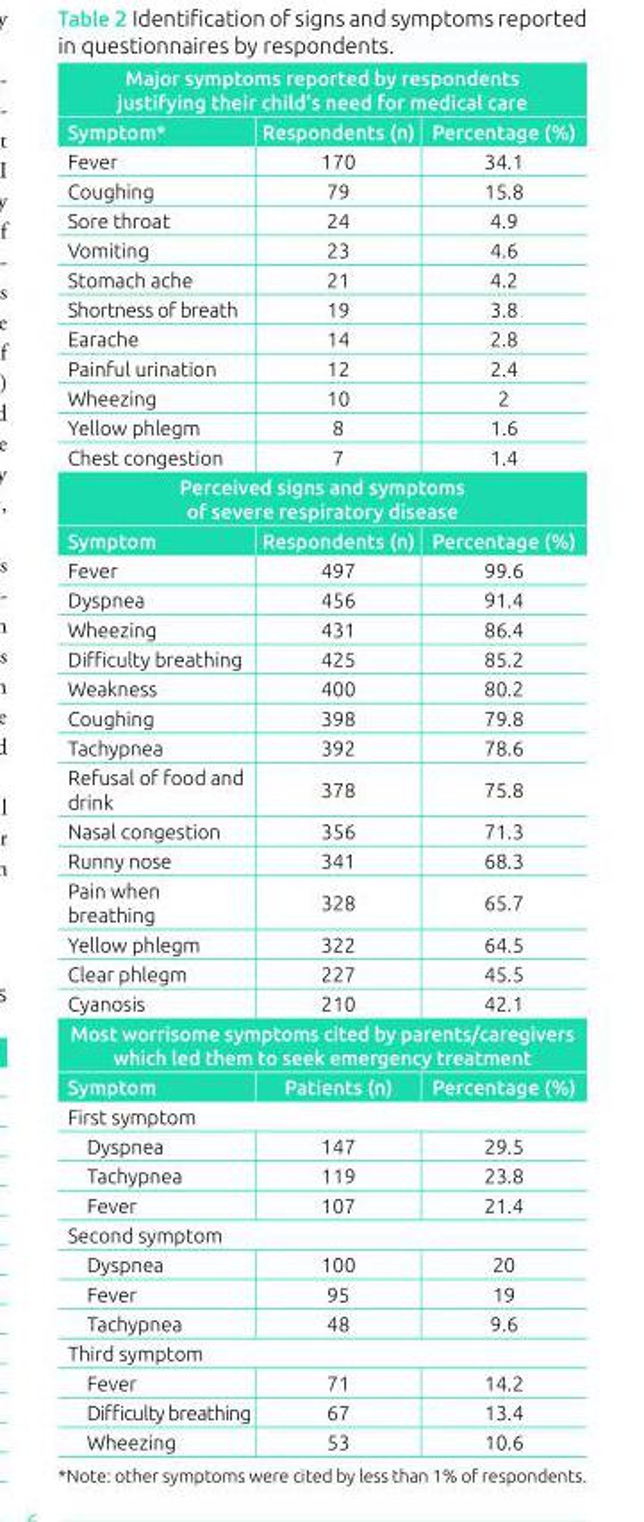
<table><thead><tr><td colspan="3">Major symptoms reported by respondents justifying their child’s need for medical care</td></tr><tr><td>Symptom*</td><td>Respondents (n)</td><td>Percentage (%)</td></tr></thead><tbody><tr><td>Fever</td><td>170</td><td>34.1</td></tr><tr><td>Coughing</td><td>79</td><td>15.8</td></tr><tr><td>Sore throat</td><td>24</td><td>4.9</td></tr><tr><td>Vomiting</td><td>23</td><td>4.6</td></tr><tr><td>Stomach ache</td><td>21</td><td>4.2</td></tr><tr><td>Shortness of breath</td><td>19</td><td>3.8</td></tr><tr><td>Earache</td><td>14</td><td>2.8</td></tr><tr><td>Painful urination</td><td>12</td><td>2.4</td></tr><tr><td>Wheezing</td><td>10</td><td>2</td></tr><tr><td>Yellow phlegm</td><td>8</td><td>1.6</td></tr><tr><td>Chest congestion</td><td>7</td><td>1.4</td></tr><tr><td colspan="3">Perceived signs and symptoms of severe respiratory disease</td></tr><tr><td>Symptom</td><td>Respondents (n)</td><td>Percentage (%)</td></tr><tr><td>Fever</td><td>497</td><td>99.6</td></tr><tr><td>Dyspnea</td><td>456</td><td>91.4</td></tr><tr><td>Wheezing</td><td>431</td><td>86.4</td></tr><tr><td>Difficulty breathing</td><td>425</td><td>85.2</td></tr><tr><td>Weakness</td><td>400</td><td>80.2</td></tr><tr><td>Coughing</td><td>398</td><td>79.8</td></tr><tr><td>Tachypnea</td><td>392</td><td>78.6</td></tr><tr><td>Refusal of food and drink</td><td>378</td><td>75.8</td></tr><tr><td>Nasal congestion</td><td>356</td><td>71.3</td></tr><tr><td>Runny nose</td><td>341</td><td>68.3</td></tr><tr><td>Pain when breathing</td><td>328</td><td>65.7</td></tr><tr><td>Yellow phlegm</td><td>322</td><td>64.5</td></tr><tr><td>Clear phlegm</td><td>227</td><td>45.5</td></tr><tr><td>Cyanosis</td><td>210</td><td>42.1</td></tr><tr><td colspan="3">Most worrisome symptoms cited by parents/caregivers which led them to seek emergency treatment</td></tr><tr><td>Symptom</td><td>Patients (n)</td><td>Percentage (%)</td></tr><tr><td colspan="3">First symptom</td></tr><tr><td>Dyspnea</td><td>147</td><td>29.5</td></tr><tr><td>Tachypnea</td><td>119</td><td>23.8</td></tr><tr><td>Fever</td><td>107</td><td>21.4</td></tr><tr><td colspan="3">Second symptom</td></tr><tr><td>Dyspnea</td><td>100</td><td>20</td></tr><tr><td>Fever</td><td>95</td><td>19</td></tr><tr><td>Tachypnea</td><td>48</td><td>9.6</td></tr><tr><td colspan="3">Third symptom</td></tr><tr><td>Fever</td><td>71</td><td>14.2</td></tr><tr><td>Difficulty breathing</td><td>67</td><td>13.4</td></tr><tr><td>Wheezing</td><td>53</td><td>10.6</td></tr></tbody></table>